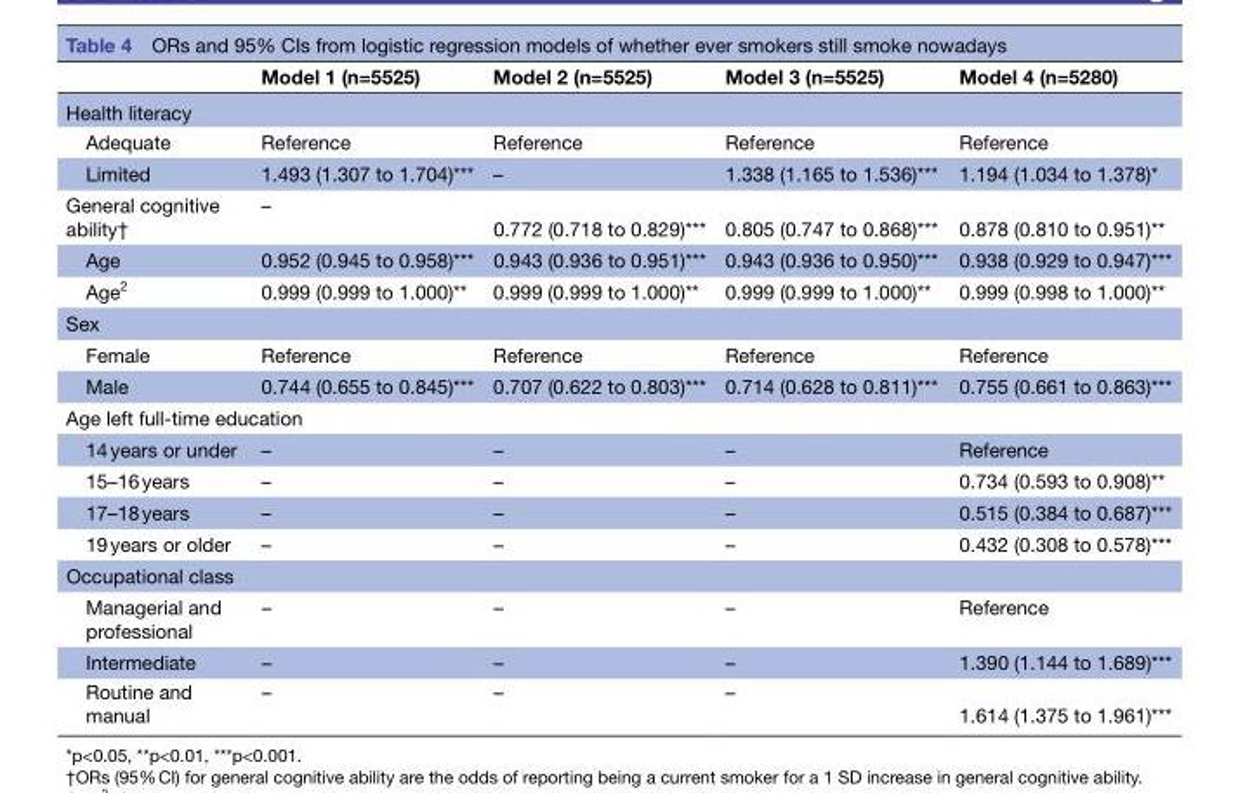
<table><thead><tr><td></td><td>Model 1 (n=5525)</td><td>Model 2 (n=5525)</td><td>Model 3 (n=5525)</td><td>Model 4 (n=5280)</td></tr></thead><tbody><tr><td colspan="5">Health literacy</td></tr><tr><td>Adequate</td><td>Reference</td><td>Reference</td><td>Reference</td><td>Reference</td></tr><tr><td>Limited</td><td>1.493 (1.307 to 1.704)***</td><td>–</td><td>1.338 (1.165 to 1.536)***</td><td>1.194 (1.034 to 1.378)*</td></tr><tr><td>General cognitive ability†</td><td>–</td><td>0.772 (0.718 to 0.829)***</td><td>0.805 (0.747 to 0.868)***</td><td>0.878 (0.810 to 0.951)**</td></tr><tr><td>Age</td><td>0.952 (0.945 to 0.958)***</td><td>0.943 (0.936 to 0.951)***</td><td>0.943 (0.936 to 0.950)***</td><td>0.938 (0.929 to 0.947)***</td></tr><tr><td>Age<sup>2</sup></td><td>0.999 (0.999 to 1.000)**</td><td>0.999 (0.999 to 1.000)**</td><td>0.999 (0.999 to 1.000)**</td><td>0.999 (0.998 to 1.000)**</td></tr><tr><td colspan="5">Sex</td></tr><tr><td>Female</td><td>Reference</td><td>Reference</td><td>Reference</td><td>Reference</td></tr><tr><td>Male</td><td>0.744 (0.655 to 0.845)***</td><td>0.707 (0.622 to 0.803)***</td><td>0.714 (0.628 to 0.811)***</td><td>0.755 (0.661 to 0.863)***</td></tr><tr><td colspan="5">Age left full-time education</td></tr><tr><td>14 years or under</td><td>–</td><td>–</td><td>–</td><td>Reference</td></tr><tr><td>15–16 years</td><td>–</td><td>–</td><td>–</td><td>0.734 (0.593 to 0.908)**</td></tr><tr><td>17–18 years</td><td>–</td><td>–</td><td>–</td><td>0.515 (0.384 to 0.687)***</td></tr><tr><td>19 years or older</td><td>–</td><td>–</td><td>–</td><td>0.432 (0.308 to 0.578)***</td></tr><tr><td colspan="5">Occupational class</td></tr><tr><td>Managerial and professional</td><td>–</td><td>–</td><td>–</td><td>Reference</td></tr><tr><td>Intermediate</td><td>–</td><td>–</td><td>–</td><td>1.390 (1.144 to 1.689)***</td></tr><tr><td>Routine and manual</td><td>–</td><td>–</td><td>–</td><td>1.614 (1.375 to 1.961)***</td></tr></tbody></table>